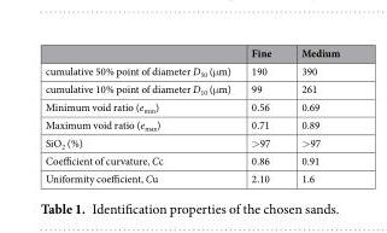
<table><thead><tr><td></td><td>Fine</td><td>Medium</td></tr></thead><tbody><tr><td>cumulative 50% point of diameter D<sub>50</sub> (μm)</td><td>190</td><td>390</td></tr><tr><td>cumulative 10% point of diameter D<sub>10</sub> (μm)</td><td>99</td><td>261</td></tr><tr><td>Minimum void ratio (e<sub>min</sub>)</td><td>0.56</td><td>0.69</td></tr><tr><td>Maximum void ratio (e<sub>max</sub>)</td><td>0.71</td><td>0.89</td></tr><tr><td>SiO<sub>2</sub> (%)</td><td>&gt;97</td><td>&gt;97</td></tr><tr><td>Coefficient of curvature, Cc</td><td>0.86</td><td>0.91</td></tr><tr><td>Uniformity coefficient, Cu</td><td>2.10</td><td>1.6</td></tr></tbody></table>